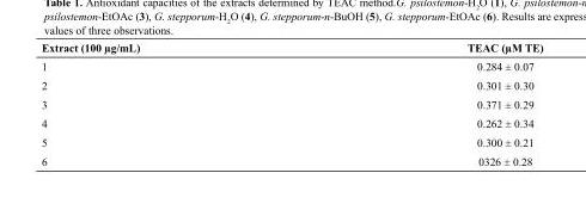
<table><thead><tr><td>Extract (100 µg/mL)</td><td>TEAC (µM TE)</td></tr></thead><tbody><tr><td>1</td><td>0.284 ± 0.07</td></tr><tr><td>2</td><td>0.301 ± 0.30</td></tr><tr><td>3</td><td>0.371 ± 0.29</td></tr><tr><td>4</td><td>0.262 ± 0.34</td></tr><tr><td>5</td><td>0.300 ± 0.21</td></tr><tr><td>6</td><td>0326 ± 0.28</td></tr></tbody></table>